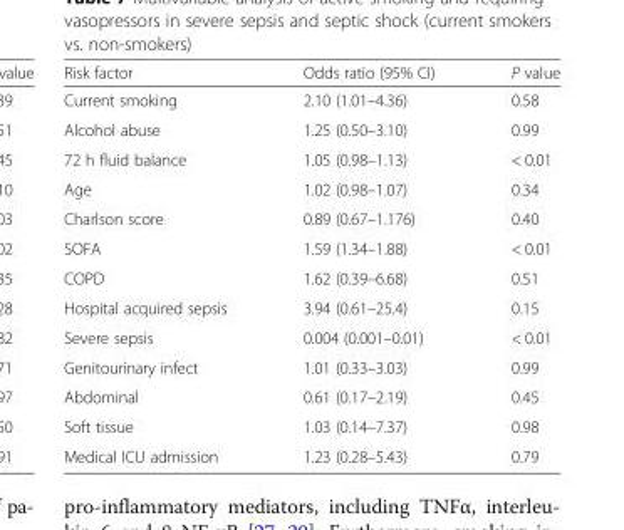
<table><thead><tr><td>Risk factor</td><td>Odds ratio (95% CI)</td><td>P value</td></tr></thead><tbody><tr><td>Current smoking</td><td>2.10 (1.01–4.36)</td><td>0.58</td></tr><tr><td>Alcohol abuse</td><td>1.25 (0.50–3.10)</td><td>0.99</td></tr><tr><td>72 h fluid balance</td><td>1.05 (0.98–1.13)</td><td>&lt; 0.01</td></tr><tr><td>Age</td><td>1.02 (0.98–1.07)</td><td>0.34</td></tr><tr><td>Charlson score</td><td>0.89 (0.67–1.176)</td><td>0.40</td></tr><tr><td>SOFA</td><td>1.59 (1.34–1.88)</td><td>&lt; 0.01</td></tr><tr><td>COPD</td><td>1.62 (0.39–6.68)</td><td>0.51</td></tr><tr><td>Hospital acquired sepsis</td><td>3.94 (0.61–25.4)</td><td>0.15</td></tr><tr><td>Severe sepsis</td><td>0.004 (0.001–0.01)</td><td>&lt; 0.01</td></tr><tr><td>Genitourinary infect</td><td>1.01 (0.33–3.03)</td><td>0.99</td></tr><tr><td>Abdominal</td><td>0.61 (0.17–2.19)</td><td>0.45</td></tr><tr><td>Soft tissue</td><td>1.03 (0.14–7.37)</td><td>0.98</td></tr><tr><td>Medical ICU admission</td><td>1.23 (0.28–5.43)</td><td>0.79</td></tr></tbody></table>